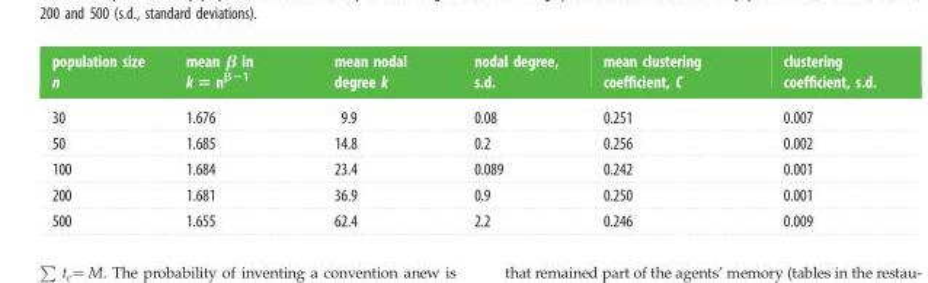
<table><thead><tr><td>population size n</td><td>mean β in k = n<sup>β−1</sup></td><td>mean nodal degree k</td><td>nodal degree, s.d.</td><td>mean clustering coefficient, C</td><td>clustering coefficient, s.d.</td></tr></thead><tbody><tr><td>30</td><td>1.676</td><td>9.9</td><td>0.08</td><td>0.251</td><td>0.007</td></tr><tr><td>50</td><td>1.685</td><td>14.8</td><td>0.2</td><td>0.256</td><td>0.002</td></tr><tr><td>100</td><td>1.684</td><td>23.4</td><td>0.089</td><td>0.242</td><td>0.001</td></tr><tr><td>200</td><td>1.681</td><td>36.9</td><td>0.9</td><td>0.250</td><td>0.001</td></tr><tr><td>500</td><td>1.655</td><td>62.4</td><td>2.2</td><td>0.246</td><td>0.009</td></tr></tbody></table>